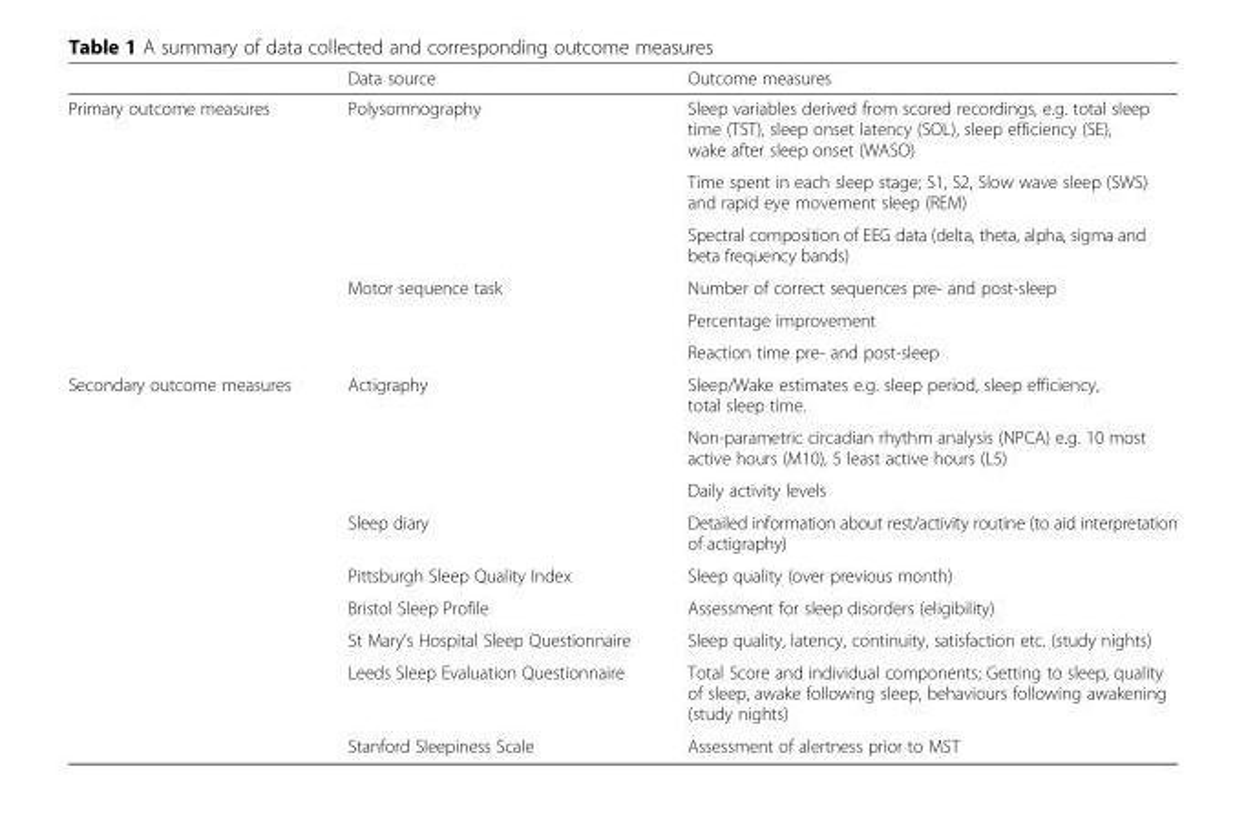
<table><thead><tr><td></td><td>Data source</td><td>Outcome measures</td></tr></thead><tbody><tr><td rowspan="6">Primary outcome measures</td><td rowspan="3">Polysomnography</td><td>Sleep variables derived from scored recordings, e.g. total sleep time (TST), sleep onset latency (SOL), sleep efficiency (SE), wake after sleep onset (WASO)</td></tr><tr><td>Time spent in each sleep stage; S1, S2, Slow wave sleep (SWS) and rapid eye movement sleep (REM)</td></tr><tr><td>Spectral composition of EEG data (delta, theta, alpha, sigma and beta frequency bands)</td></tr><tr><td rowspan="3">Motor sequence task</td><td>Number of correct sequences pre- and post-sleep</td></tr><tr><td>Percentage improvement</td></tr><tr><td>Reaction time pre- and post-sleep</td></tr><tr><td rowspan="9">Secondary outcome measures</td><td rowspan="3">Actigraphy</td><td>Sleep/Wake estimates e.g. sleep period, sleep efficiency, total sleep time.</td></tr><tr><td>Non-parametric circadian rhythm analysis (NPCA) e.g. 10 most active hours (M10), 5 least active hours (L5)</td></tr><tr><td>Daily activity levels</td></tr><tr><td>Sleep diary</td><td>Detailed information about rest/activity routine (to aid interpretation of actigraphy)</td></tr><tr><td>Pittsburgh Sleep Quality Index</td><td>Sleep quality (over previous month)</td></tr><tr><td>Bristol Sleep Profile</td><td>Assessment for sleep disorders (eligibility)</td></tr><tr><td>St Mary’s Hospital Sleep Questionnaire</td><td>Sleep quality, latency, continuity, satisfaction etc. (study nights)</td></tr><tr><td>Leeds Sleep Evaluation Questionnaire</td><td>Total Score and individual components; Getting to sleep, quality of sleep, awake following sleep, behaviours following awakening (study nights)</td></tr><tr><td>Stanford Sleepiness Scale</td><td>Assessment of alertness prior to MST</td></tr></tbody></table>